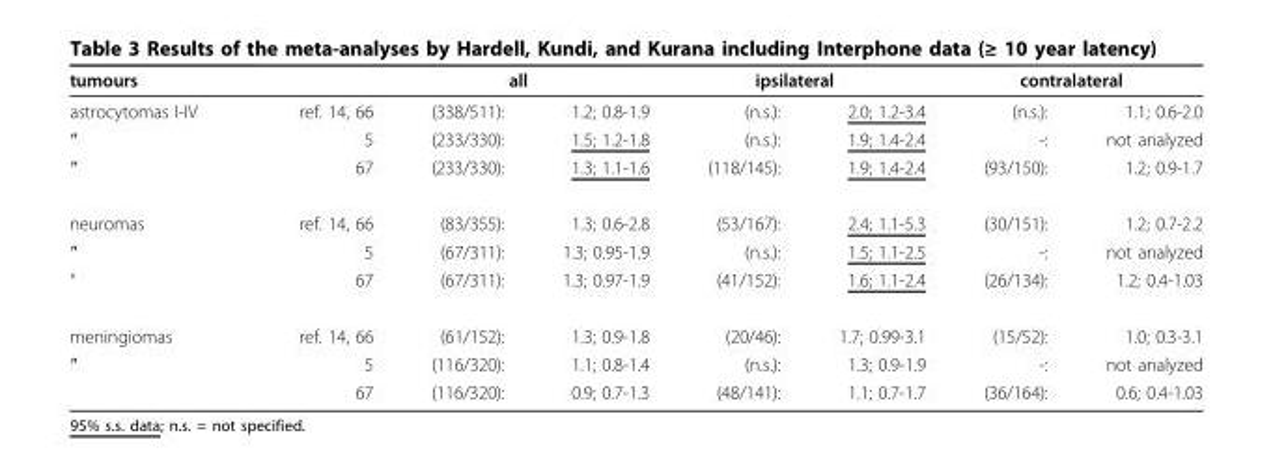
<table><thead><tr><td rowspan="2">tumours astrocytomas I-IV</td><td rowspan="2">ref. 14, 66</td><td colspan="2">all</td><td colspan="2">ipsilateral</td><td colspan="2">contralateral</td></tr><tr><td>(338/511):</td><td>1.2; 0.8-1.9</td><td>(n.s.):</td><td>2.0; 1.2-3.4</td><td>(n.s.):</td><td>1.1; 0.6-2.0</td></tr></thead><tbody><tr><td>″</td><td>5</td><td>(233/330):</td><td>1.5; 1.2-1.8</td><td>(n.s.):</td><td>1.9; 1.4-2.4</td><td>-:</td><td>not analyzed</td></tr><tr><td>″</td><td>67</td><td>(233/330):</td><td>1.3; 1.1-1.6</td><td>(118/145):</td><td>1.9; 1.4-2.4</td><td>(93/150):</td><td>1.2; 0.9-1.7</td></tr><tr><td>neuromas</td><td>ref. 14, 66</td><td>(83/355):</td><td>1.3; 0.6-2.8</td><td>(53/167):</td><td>2.4; 1.1-5.3</td><td>(30/151):</td><td>1.2; 0.7-2.2</td></tr><tr><td>″</td><td>5</td><td>(67/311):</td><td>1.3; 0.95-1.9</td><td>(n.s.):</td><td>1.5; 1.1-2.5</td><td>-:</td><td>not analyzed</td></tr><tr><td>“</td><td>67</td><td>(67/311):</td><td>1.3; 0.97-1.9</td><td>(41/152):</td><td>1.6; 1.1-2.4</td><td>(26/134):</td><td>1.2; 0.4-1.03</td></tr><tr><td>meningiomas</td><td>ref. 14, 66</td><td>(61/152):</td><td>1.3; 0.9-1.8</td><td>(20/46):</td><td>1.7; 0.99-3.1</td><td>(15/52):</td><td>1.0; 0.3-3.1</td></tr><tr><td rowspan="2">″</td><td>5</td><td>(116/320):</td><td>1.1; 0.8-1.4</td><td>(n.s.):</td><td>1.3; 0.9-1.9</td><td>-:</td><td>not analyzed</td></tr><tr><td>67</td><td>(116/320):</td><td>0.9; 0.7-1.3</td><td>(48/141):</td><td>1.1; 0.7-1.7</td><td>(36/164):</td><td>0.6; 0.4-1.03</td></tr></tbody></table>